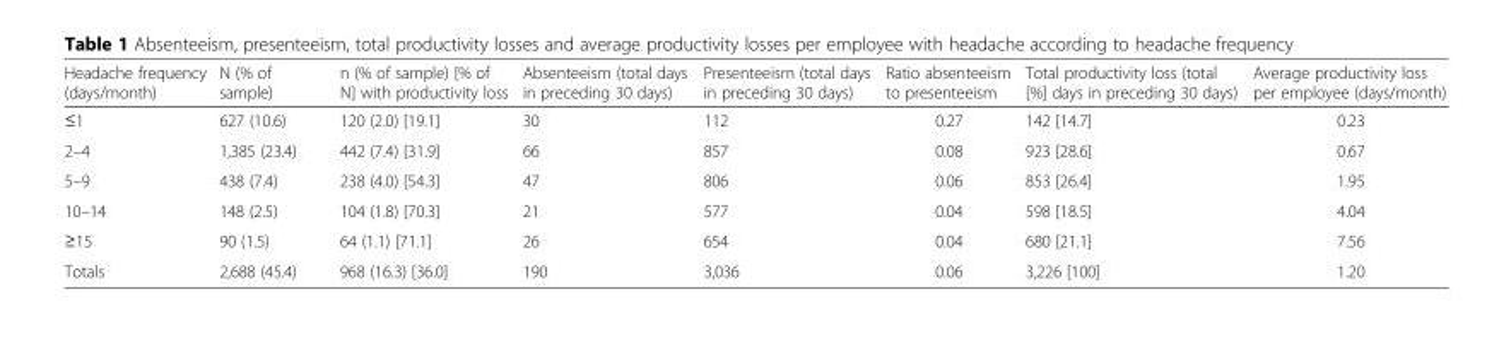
<table><thead><tr><td>Headache frequency (days/month)</td><td>N (% of sample)</td><td>n (% of sample) [% of N] with productivity loss</td><td>Absenteeism (total days in preceding 30 days)</td><td>Presenteeism (total days in preceding 30 days)</td><td>Ratio absenteeism to presenteeism</td><td>Total productivity loss (total [%] days in preceding 30 days)</td><td>Average productivity loss per employee (days/month)</td></tr></thead><tbody><tr><td>≤1</td><td>627 (10.6)</td><td>120 (2.0) [19.1]</td><td>30</td><td>112</td><td>0.27</td><td>142 [14.7]</td><td>0.23</td></tr><tr><td>2–4</td><td>1,385 (23.4)</td><td>442 (7.4) [31.9]</td><td>66</td><td>857</td><td>0.08</td><td>923 [28.6]</td><td>0.67</td></tr><tr><td>5–9</td><td>438 (7.4)</td><td>238 (4.0) [54.3]</td><td>47</td><td>806</td><td>0.06</td><td>853 [26.4]</td><td>1.95</td></tr><tr><td>10–14</td><td>148 (2.5)</td><td>104 (1.8) [70.3]</td><td>21</td><td>577</td><td>0.04</td><td>598 [18.5]</td><td>4.04</td></tr><tr><td>≥15</td><td>90 (1.5)</td><td>64 (1.1) [71.1]</td><td>26</td><td>654</td><td>0.04</td><td>680 [21.1]</td><td>7.56</td></tr><tr><td>Totals</td><td>2,688 (45.4)</td><td>968 (16.3) [36.0]</td><td>190</td><td>3,036</td><td>0.06</td><td>3,226 [100]</td><td>1.20</td></tr></tbody></table>